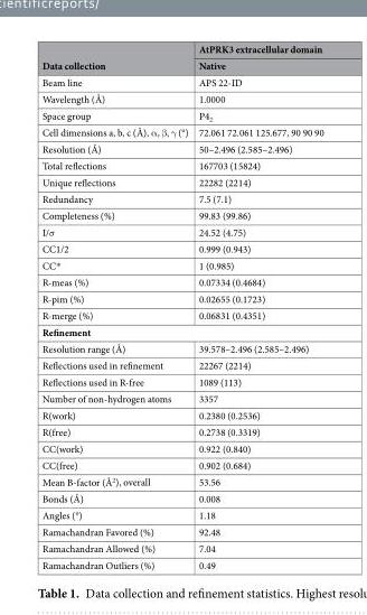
<table><thead><tr><td rowspan="2">Data collection</td><td rowspan="2">AtPRK3 extracellular domain Native</td></tr><tr></tr></thead><tbody><tr><td>Beam line</td><td>APS 22-ID</td></tr><tr><td>Wavelength (Å)</td><td>1.0000</td></tr><tr><td>Space group</td><td>P4<sub>2</sub></td></tr><tr><td>Cell dimensions a, b, c (Å), α, β, γ (°)</td><td>72.061 72.061 125.677, 90 90 90</td></tr><tr><td>Resolution (Å)</td><td>50–2.496 (2.585–2.496)</td></tr><tr><td>Total reflections</td><td>167703 (15824)</td></tr><tr><td>Unique reflections</td><td>22282 (2214)</td></tr><tr><td>Redundancy</td><td>7.5 (7.1)</td></tr><tr><td>Completeness (%)</td><td>99.83 (99.86)</td></tr><tr><td>I/σ</td><td>24.52 (4.75)</td></tr><tr><td>CC1/2</td><td>0.999 (0.943)</td></tr><tr><td>CC*</td><td>1 (0.985)</td></tr><tr><td>R-meas (%)</td><td>0.07334 (0.4684)</td></tr><tr><td>R-pim (%)</td><td>0.02655 (0.1723)</td></tr><tr><td>R-merge (%)</td><td>0.06831 (0.4351)</td></tr><tr><td colspan="2">Refinement</td></tr><tr><td>Resolution range (Å)</td><td>39.578–2.496 (2.585–2.496)</td></tr><tr><td>Reflections used in refinement</td><td>22267 (2214)</td></tr><tr><td>Reflections used in R-free</td><td>1089 (113)</td></tr><tr><td>Number of non-hydrogen atoms</td><td>3357</td></tr><tr><td>R(work)</td><td>0.2380 (0.2536)</td></tr><tr><td>R(free)</td><td>0.2738 (0.3319)</td></tr><tr><td>CC(work)</td><td>0.922 (0.840)</td></tr><tr><td>CC(free)</td><td>0.902 (0.684)</td></tr><tr><td>Mean B-factor (Å<sup>2</sup>), overall</td><td>53.56</td></tr><tr><td>Bonds (Å)</td><td>0.008</td></tr><tr><td>Angles (°)</td><td>1.18</td></tr><tr><td>Ramachandran Favored (%)</td><td>92.48</td></tr><tr><td>Ramachandran Allowed (%)</td><td>7.04</td></tr><tr><td>Ramachandran Outliers (%)</td><td>0.49</td></tr></tbody></table>